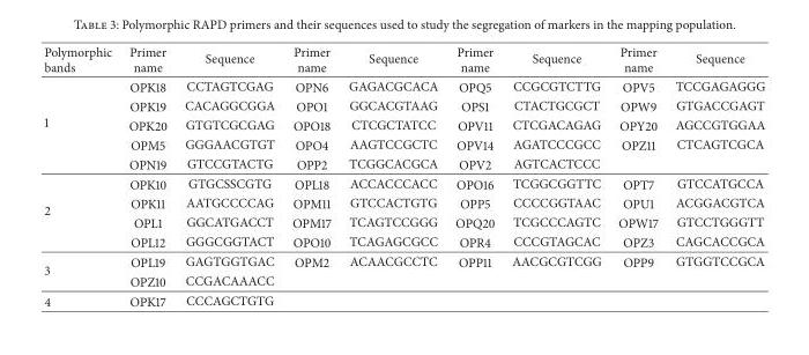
<table><thead><tr><td>Polymorphic bands</td><td>Primer name</td><td>Sequence</td><td>Primer name</td><td>Sequence</td><td>Primer name</td><td>Sequence</td><td>Primer name</td><td>Sequence</td></tr></thead><tbody><tr><td rowspan="5">1</td><td>OPK18</td><td>CCTAGTCGAG</td><td>OPN6</td><td>GAGACGCACA</td><td>OPQ5</td><td>CCGCGTCTTG</td><td>OPV5</td><td>TCCGAGAGGG</td></tr><tr><td>OPK19</td><td>CACAGGCGGA</td><td>OPO1</td><td>GGCACGTAAG</td><td>OPS1</td><td>CTACTGCGCT</td><td>OPW9</td><td>GTGACCGAGT</td></tr><tr><td>OPK20</td><td>GTGTCGCGAG</td><td>OPO18</td><td>CTCGCTATCC</td><td>OPV11</td><td>CTCGACAGAG</td><td>OPY20</td><td>AGCCGTGGAA</td></tr><tr><td>OPM5</td><td>GGGAACGTGT</td><td>OPO4</td><td>AAGTCCGCTC</td><td>OPV14</td><td>AGATCCCGCC</td><td>OPZ11</td><td>CTCAGTCGCA</td></tr><tr><td>OPN19</td><td>GTCCGTACTG</td><td>OPP2</td><td>TCGGCACGCA</td><td>OPV2</td><td>AGTCACTCCC</td><td></td><td></td></tr><tr><td rowspan="4">2</td><td>OPK10</td><td>GTGCSSCGTG</td><td>OPL18</td><td>ACCACCCACC</td><td>OPO16</td><td>TCGGCGGTTC</td><td>OPT7</td><td>GTCCATGCCA</td></tr><tr><td>OPK11</td><td>AATGCCCCAG</td><td>OPM11</td><td>GTCCACTGTG</td><td>OPP5</td><td>CCCCGGTAAC</td><td>OPU1</td><td>ACGGACGTCA</td></tr><tr><td>OPL1</td><td>GGCATGACCT</td><td>OPM17</td><td>TCAGTCCGGG</td><td>OPQ20</td><td>TCGCCCAGTC</td><td>OPW17</td><td>GTCCTGGGTT</td></tr><tr><td>OPL12</td><td>GGGCGGTACT</td><td>OPO10</td><td>TCAGAGCGCC</td><td>OPR4</td><td>CCCGTAGCAC</td><td>OPZ3</td><td>CAGCACCGCA</td></tr><tr><td rowspan="2">3</td><td>OPL19</td><td>GAGTGGTGAC</td><td>OPM2</td><td>ACAACGCCTC</td><td>OPP11</td><td>AACGCGTCGG</td><td>OPP9</td><td>GTGGTCCGCA</td></tr><tr><td>OPZ10</td><td>CCGACAAACC</td><td></td><td></td><td></td><td></td><td></td><td></td></tr><tr><td>4</td><td>OPK17</td><td>CCCAGCTGTG</td><td></td><td></td><td></td><td></td><td></td><td></td></tr></tbody></table>